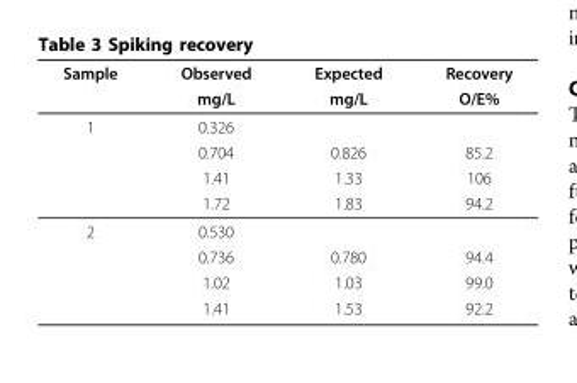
<table><thead><tr><td rowspan="2">Sample</td><td rowspan="2">Observed mg/L</td><td rowspan="2">Expected mg/L</td><td rowspan="2">Recovery O/E%</td></tr><tr></tr></thead><tbody><tr><td rowspan="4">1</td><td>0.326</td><td></td><td></td></tr><tr><td>0.704</td><td>0.826</td><td>85.2</td></tr><tr><td>1.41</td><td>1.33</td><td>106</td></tr><tr><td>1.72</td><td>1.83</td><td>94.2</td></tr><tr><td rowspan="4">2</td><td>0.530</td><td></td><td></td></tr><tr><td>0.736</td><td>0.780</td><td>94.4</td></tr><tr><td>1.02</td><td>1.03</td><td>99.0</td></tr><tr><td>1.41</td><td>1.53</td><td>92.2</td></tr></tbody></table>